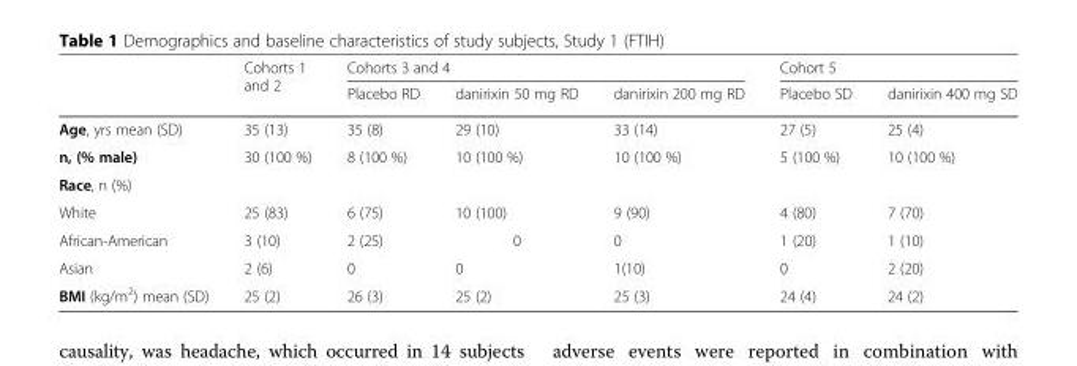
<table><thead><tr><td rowspan="2"></td><td rowspan="2">Cohorts 1 and 2</td><td colspan="3">Cohorts 3 and 4</td><td colspan="2">Cohort 5</td></tr><tr><td>Placebo RD</td><td>danirixin 50 mg RD</td><td>danirixin 200 mg RD</td><td>Placebo SD</td><td>danirixin 400 mg SD</td></tr></thead><tbody><tr><td>Age, yrs mean (SD)</td><td>35 (13)</td><td>35 (8)</td><td>29 (10)</td><td>33 (14)</td><td>27 (5)</td><td>25 (4)</td></tr><tr><td>n, (% male)</td><td>30 (100 %)</td><td>8 (100 %)</td><td>10 (100 %)</td><td>10 (100 %)</td><td>5 (100 %)</td><td>10 (100 %)</td></tr><tr><td colspan="7">Race, n (%)</td></tr><tr><td>White</td><td>25 (83)</td><td>6 (75)</td><td>10 (100)</td><td>9 (90)</td><td>4 (80)</td><td>7 (70)</td></tr><tr><td>African-American</td><td>3 (10)</td><td>2 (25)</td><td>0</td><td>0</td><td>1 (20)</td><td>1 (10)</td></tr><tr><td>Asian</td><td>2 (6)</td><td>0</td><td>0</td><td>1(10)</td><td>0</td><td>2 (20)</td></tr><tr><td>BMI (kg/m<sup>2</sup>) mean (SD)</td><td>25 (2)</td><td>26 (3)</td><td>25 (2)</td><td>25 (3)</td><td>24 (4)</td><td>24 (2)</td></tr></tbody></table>